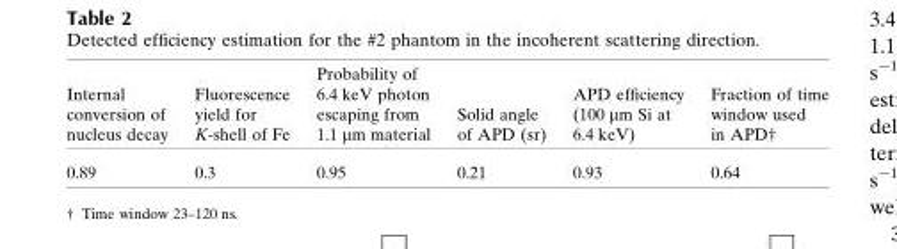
<table><thead><tr><td>Internal conversion of nucleus decay</td><td>Fluorescence yield for K-shell of Fe</td><td>Probability of 6.4 keV photon escaping from 1.1 µm material</td><td>Solid angle of APD (sr)</td><td>APD efficiency (100 µm Si at 6.4 keV)</td><td>Fraction of time window used in APD†</td></tr></thead><tbody><tr><td>0.89</td><td>0.3</td><td>0.95</td><td>0.21</td><td>0.93</td><td>0.64</td></tr></tbody></table>